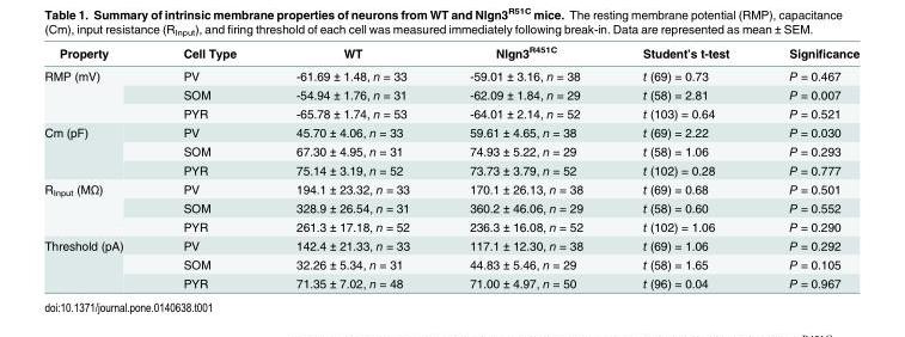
<table><thead><tr><td>Property</td><td>Cell Type</td><td>WT</td><td>Nlgn3<sup>R451C</sup></td><td>Student’s t-test</td><td>Significance</td></tr></thead><tbody><tr><td rowspan="3">RMP (mV)</td><td>PV</td><td>-61.69 ± 1.48, n = 33</td><td>-59.01 ± 3.16, n = 38</td><td>t (69) = 0.73</td><td>P = 0.467</td></tr><tr><td>SOM</td><td>-54.94 ± 1.76, n = 31</td><td>-62.09 ± 1.84, n = 29</td><td>t (58) = 2.81</td><td>P = 0.007</td></tr><tr><td>PYR</td><td>-65.78 ± 1.74, n = 53</td><td>-64.01 ± 2.14, n = 52</td><td>t (103) = 0.64</td><td>P = 0.521</td></tr><tr><td rowspan="3">Cm (pF)</td><td>PV</td><td>45.70 ± 4.06, n = 33</td><td>59.61 ± 4.65, n = 38</td><td>t (69) = 2.22</td><td>P = 0.030</td></tr><tr><td>SOM</td><td>67.30 ± 4.95, n = 31</td><td>74.93 ± 5.22, n = 29</td><td>t (58) = 1.06</td><td>P = 0.293</td></tr><tr><td>PYR</td><td>75.14 ± 3.19, n = 52</td><td>73.73 ± 3.79, n = 52</td><td>t (102) = 0.28</td><td>P = 0.777</td></tr><tr><td rowspan="3">R<sub>Input</sub> (MΩ)</td><td>PV</td><td>194.1 ± 23.32, n = 33</td><td>170.1 ± 26.13, n = 38</td><td>t (69) = 0.68</td><td>P = 0.501</td></tr><tr><td>SOM</td><td>328.9 ± 26.54, n = 31</td><td>360.2 ± 46.06, n = 29</td><td>t (58) = 0.60</td><td>P = 0.552</td></tr><tr><td>PYR</td><td>261.3 ± 17.18, n = 52</td><td>236.3 ± 16.08, n = 52</td><td>t (102) = 1.06</td><td>P = 0.290</td></tr><tr><td rowspan="3">Threshold (pA)</td><td>PV</td><td>142.4 ± 21.33, n = 33</td><td>117.1 ± 12.30, n = 38</td><td>t (69) = 1.06</td><td>P = 0.292</td></tr><tr><td>SOM</td><td>32.26 ± 5.34, n = 31</td><td>44.83 ± 5.46, n = 29</td><td>t (58) = 1.65</td><td>P = 0.105</td></tr><tr><td>PYR</td><td>71.35 ± 7.02, n = 48</td><td>71.00 ± 4.97, n = 50</td><td>t (96) = 0.04</td><td>P = 0.967</td></tr></tbody></table>